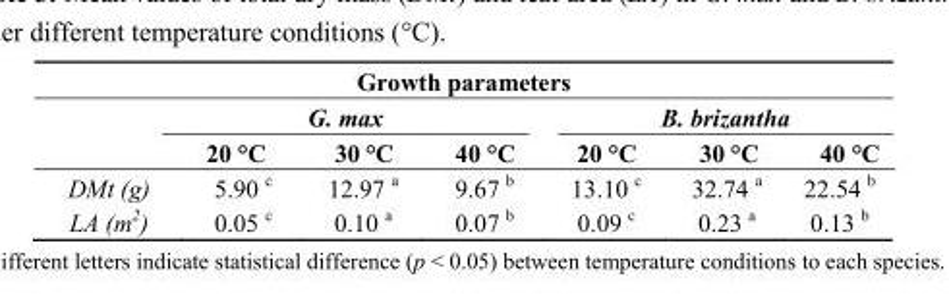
<table><thead><tr><td colspan="7">Growth parameters</td></tr><tr><td rowspan="2"></td><td colspan="3">G. max</td><td colspan="3">B. brizantha</td></tr><tr><td>20 °C</td><td>30 °C</td><td>40 °C</td><td>20 °C</td><td>30 °C</td><td>40 °C</td></tr></thead><tbody><tr><td>DMt (g)</td><td>5.90 <sup>c</sup></td><td>12.97 <sup>a</sup></td><td>9.67 <sup>b</sup></td><td>13.10 <sup>c</sup></td><td>32.74 <sup>a</sup></td><td>22.54 <sup>b</sup></td></tr><tr><td>LA (m<sup>2</sup>)</td><td>0.05 <sup>c</sup></td><td>0.10 <sup>a</sup></td><td>0.07 <sup>b</sup></td><td>0.09 <sup>c</sup></td><td>0.23 <sup>a</sup></td><td>0.13 <sup>b</sup></td></tr></tbody></table>